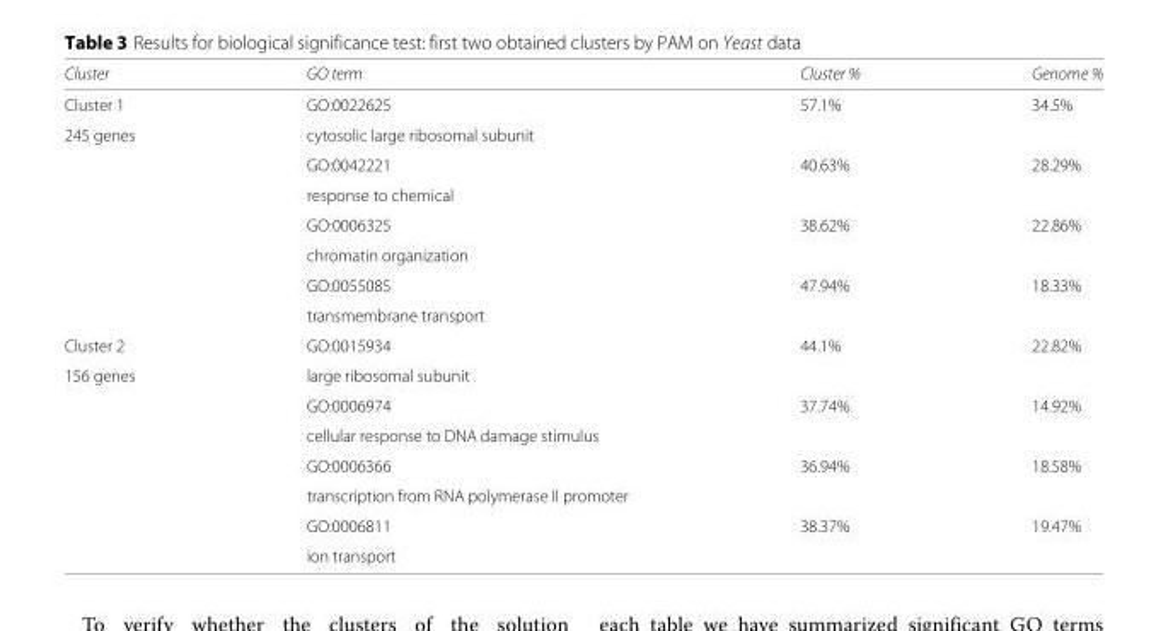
<table><thead><tr><td>Cluster</td><td>GO term</td><td>Cluster %</td><td>Genome %</td></tr></thead><tbody><tr><td>Cluster 1</td><td>GO:0022625</td><td>57.1%</td><td>34.5%</td></tr><tr><td rowspan="7">245 genes</td><td>cytosolic large ribosomal subunit</td><td></td><td></td></tr><tr><td>GO:0042221</td><td>40.63%</td><td>28.29%</td></tr><tr><td>response to chemical</td><td></td><td></td></tr><tr><td>GO:0006325</td><td>38.62%</td><td>22.86%</td></tr><tr><td>chromatin organization</td><td></td><td></td></tr><tr><td>GO:0055085</td><td>47.94%</td><td>18.33%</td></tr><tr><td>transmembrane transport</td><td></td><td></td></tr><tr><td>Cluster 2</td><td>GO:0015934</td><td>44.1%</td><td>22.82%</td></tr><tr><td rowspan="7">156 genes</td><td>large ribosomal subunit</td><td></td><td></td></tr><tr><td>GO:0006974</td><td>37.74%</td><td>14.92%</td></tr><tr><td>cellular response to DNA damage stimulus</td><td></td><td></td></tr><tr><td>GO:0006366</td><td>36.94%</td><td>18.58%</td></tr><tr><td>transcription from RNA polymerase II promoter</td><td></td><td></td></tr><tr><td>GO:0006811</td><td>38.37%</td><td>19.47%</td></tr><tr><td>ion transport</td><td></td><td></td></tr></tbody></table>